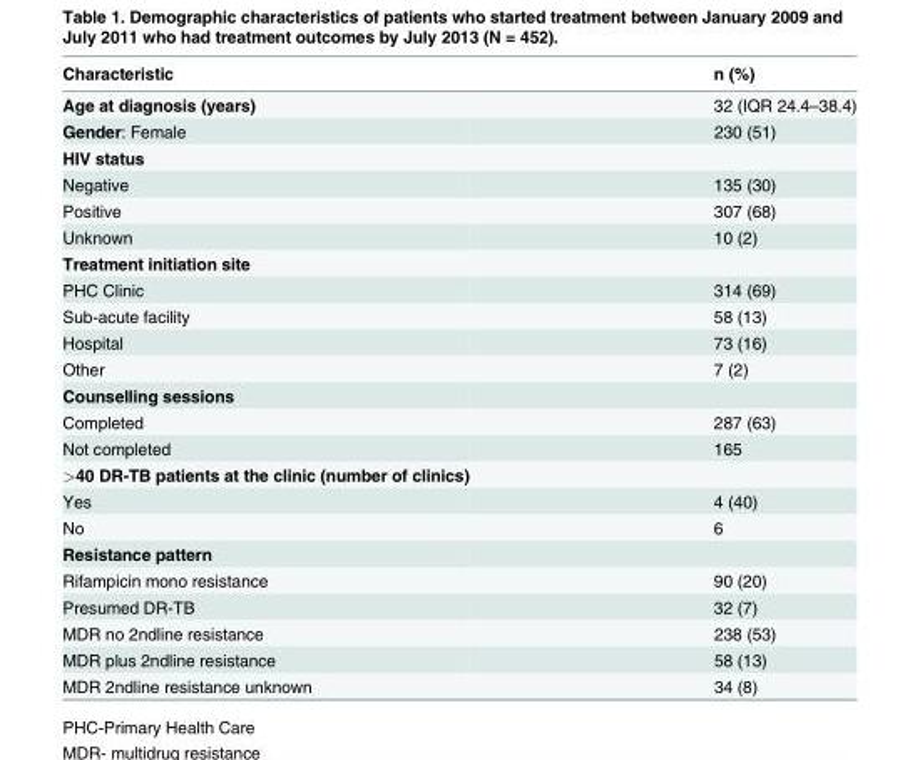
<table><thead><tr><td>Characteristic</td><td>n (%)</td></tr></thead><tbody><tr><td>Age at diagnosis (years)</td><td>32 (IQR 24.4–38.4)</td></tr><tr><td>Gender: Female</td><td>230 (51)</td></tr><tr><td colspan="2">HIV status</td></tr><tr><td>Negative</td><td>135 (30)</td></tr><tr><td>Positive</td><td>307 (68)</td></tr><tr><td>Unknown</td><td>10 (2)</td></tr><tr><td colspan="2">Treatment initiation site</td></tr><tr><td>PHC Clinic</td><td>314 (69)</td></tr><tr><td>Sub-acute facility</td><td>58 (13)</td></tr><tr><td>Hospital</td><td>73 (16)</td></tr><tr><td>Other</td><td>7 (2)</td></tr><tr><td colspan="2">Counselling sessions</td></tr><tr><td>Completed</td><td>287 (63)</td></tr><tr><td>Not completed</td><td>165</td></tr><tr><td colspan="2">&gt;40 DR-TB patients at the clinic (number of clinics)</td></tr><tr><td>Yes</td><td>4 (40)</td></tr><tr><td>No</td><td>6</td></tr><tr><td colspan="2">Resistance pattern</td></tr><tr><td>Rifampicin mono resistance</td><td>90 (20)</td></tr><tr><td>Presumed DR-TB</td><td>32 (7)</td></tr><tr><td>MDR no 2ndline resistance</td><td>238 (53)</td></tr><tr><td>MDR plus 2ndline resistance</td><td>58 (13)</td></tr><tr><td>MDR 2ndline resistance unknown</td><td>34 (8)</td></tr></tbody></table>